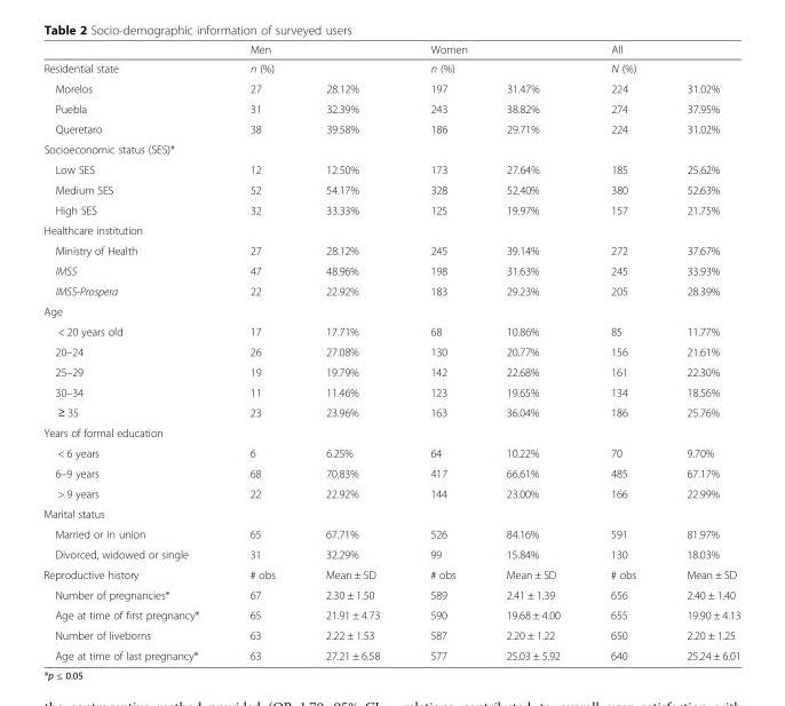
<table><thead><tr><td rowspan="3">Residential state Morelos</td><td rowspan="2" colspan="2">Men n (%)</td><td rowspan="2" colspan="2">Women n (%)</td><td rowspan="2" colspan="2">All N (%)</td></tr><tr></tr><tr><td>27</td><td>28.12%</td><td>197</td><td>31.47%</td><td>224</td><td>31.02%</td></tr></thead><tbody><tr><td>Puebla</td><td>31</td><td>32.39%</td><td>243</td><td>38.82%</td><td>274</td><td>37.95%</td></tr><tr><td>Queretaro</td><td>38</td><td>39.58%</td><td>186</td><td>29.71%</td><td>224</td><td>31.02%</td></tr><tr><td colspan="7">Socioeconomic status (SES)*</td></tr><tr><td>Low SES</td><td>12</td><td>12.50%</td><td>173</td><td>27.64%</td><td>185</td><td>25.62%</td></tr><tr><td>Medium SES</td><td>52</td><td>54.17%</td><td>328</td><td>52.40%</td><td>380</td><td>52.63%</td></tr><tr><td>High SES</td><td>32</td><td>33.33%</td><td>125</td><td>19.97%</td><td>157</td><td>21.75%</td></tr><tr><td colspan="7">Healthcare institution</td></tr><tr><td>Ministry of Health</td><td>27</td><td>28.12%</td><td>245</td><td>39.14%</td><td>272</td><td>37.67%</td></tr><tr><td>IMSS</td><td>47</td><td>48.96%</td><td>198</td><td>31.63%</td><td>245</td><td>33.93%</td></tr><tr><td>IMSS-Prospera</td><td>22</td><td>22.92%</td><td>183</td><td>29.23%</td><td>205</td><td>28.39%</td></tr><tr><td colspan="7">Age</td></tr><tr><td>&lt; 20 years old</td><td>17</td><td>17.71%</td><td>68</td><td>10.86%</td><td>85</td><td>11.77%</td></tr><tr><td>20–24</td><td>26</td><td>27.08%</td><td>130</td><td>20.77%</td><td>156</td><td>21.61%</td></tr><tr><td>25–29</td><td>19</td><td>19.79%</td><td>142</td><td>22.68%</td><td>161</td><td>22.30%</td></tr><tr><td>30–34</td><td>11</td><td>11.46%</td><td>123</td><td>19.65%</td><td>134</td><td>18.56%</td></tr><tr><td>≥ 35</td><td>23</td><td>23.96%</td><td>163</td><td>36.04%</td><td>186</td><td>25.76%</td></tr><tr><td colspan="7">Years of formal education</td></tr><tr><td>&lt; 6 years</td><td>6</td><td>6.25%</td><td>64</td><td>10.22%</td><td>70</td><td>9.70%</td></tr><tr><td>6–9 years</td><td>68</td><td>70.83%</td><td>417</td><td>66.61%</td><td>485</td><td>67.17%</td></tr><tr><td>&gt; 9 years</td><td>22</td><td>22.92%</td><td>144</td><td>23.00%</td><td>166</td><td>22.99%</td></tr><tr><td colspan="7">Marital status</td></tr><tr><td>Married or in union</td><td>65</td><td>67.71%</td><td>526</td><td>84.16%</td><td>591</td><td>81.97%</td></tr><tr><td>Divorced, widowed or single</td><td>31</td><td>32.29%</td><td>99</td><td>15.84%</td><td>130</td><td>18.03%</td></tr><tr><td>Reproductive history</td><td># obs</td><td>Mean ± SD</td><td># obs</td><td>Mean ± SD</td><td># obs</td><td>Mean ± SD</td></tr><tr><td>Number of pregnancies*</td><td>67</td><td>2.30 ± 1.50</td><td>589</td><td>2.41 ± 1.39</td><td>656</td><td>2.40 ± 1.40</td></tr><tr><td>Age at time of first pregnancy*</td><td>65</td><td>21.91 ± 4.73</td><td>590</td><td>19.68 ± 4.00</td><td>655</td><td>19.90 ± 4.13</td></tr><tr><td>Number of liveborns</td><td>63</td><td>2.22 ± 1.53</td><td>587</td><td>2.20 ± 1.22</td><td>650</td><td>2.20 ± 1.25</td></tr><tr><td>Age at time of last pregnancy*</td><td>63</td><td>27.21 ± 6.58</td><td>577</td><td>25.03 ± 5.92</td><td>640</td><td>25.24 ± 6.01</td></tr></tbody></table>